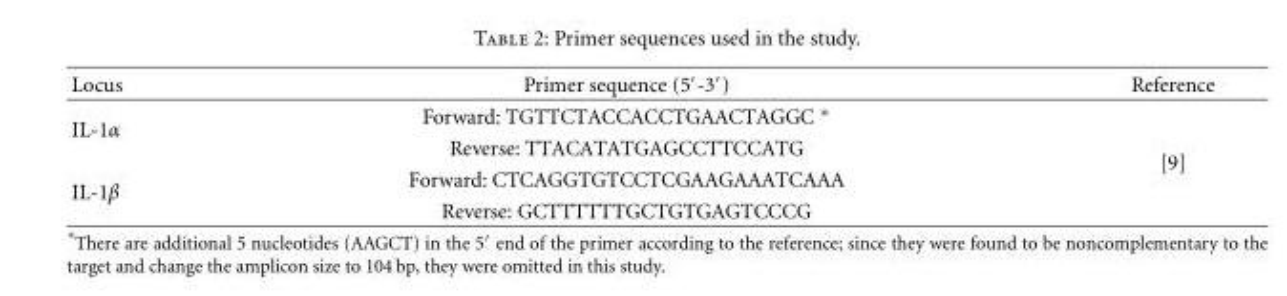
<table><thead><tr><td>Locus</td><td>Primer sequence (5<sup>′</sup>-3<sup>′</sup>)</td><td>Reference</td></tr></thead><tbody><tr><td rowspan="2">IL-1α</td><td>Forward: TGTTCTACCACCTGAACTAGGC ∗</td><td rowspan="4">[9]</td></tr><tr><td>Reverse: TTACATATGAGCCTTCCATG</td></tr><tr><td rowspan="2">IL-1β</td><td>Forward: CTCAGGTGTCCTCGAAGAAATCAAA</td></tr><tr><td>Reverse: GCTTTTTTGCTGTGAGTCCCG</td></tr></tbody></table>